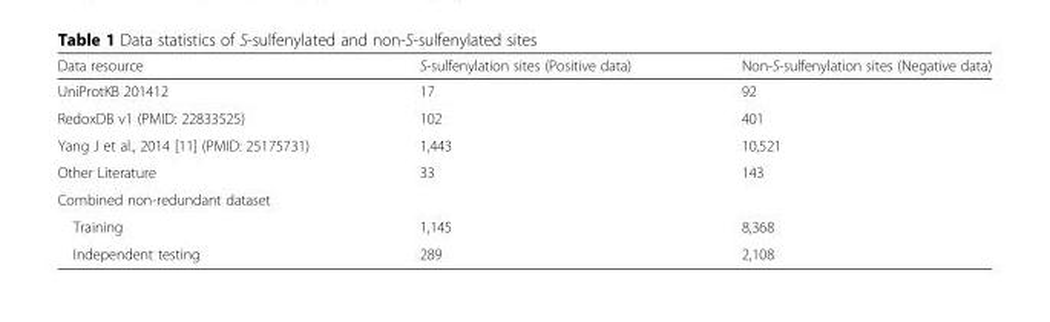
<table><thead><tr><td>Data resource</td><td>S-sulfenylation sites (Positive data)</td><td>Non-S-sulfenylation sites (Negative data)</td></tr></thead><tbody><tr><td>UniProtKB 201412</td><td>17</td><td>92</td></tr><tr><td>RedoxDB v1 (PMID: 22833525)</td><td>102</td><td>401</td></tr><tr><td>Yang J et al., 2014 [11] (PMID: 25175731)</td><td>1,443</td><td>10,521</td></tr><tr><td>Other Literature</td><td>33</td><td>143</td></tr><tr><td colspan="3">Combined non-redundant dataset</td></tr><tr><td>Training</td><td>1,145</td><td>8,368</td></tr><tr><td>Independent testing</td><td>289</td><td>2,108</td></tr></tbody></table>